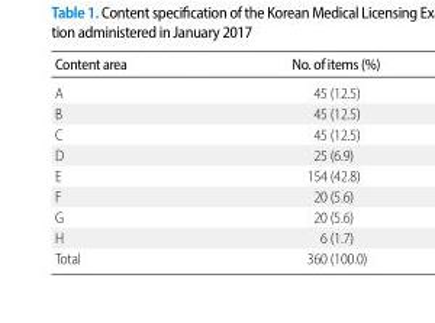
<table><thead><tr><td>Content area</td><td>No. of items (%)</td></tr></thead><tbody><tr><td>A</td><td>45 (12.5)</td></tr><tr><td>B</td><td>45 (12.5)</td></tr><tr><td>C</td><td>45 (12.5)</td></tr><tr><td>D</td><td>25 (6.9)</td></tr><tr><td>E</td><td>154 (42.8)</td></tr><tr><td>F</td><td>20 (5.6)</td></tr><tr><td>G</td><td>20 (5.6)</td></tr><tr><td>H</td><td>6 (1.7)</td></tr><tr><td>Total</td><td>360 (100.0)</td></tr></tbody></table>